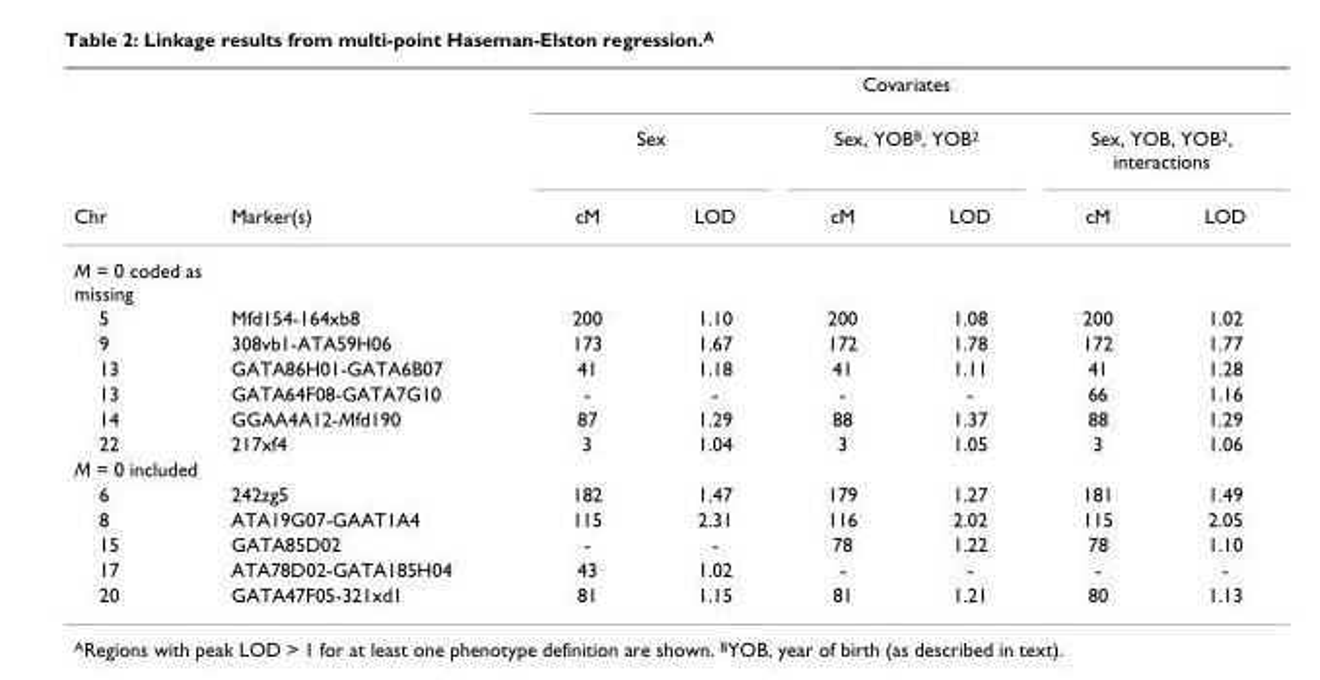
<table><thead><tr><td rowspan="3">Chr</td><td rowspan="3">Marker(s)</td><td colspan="6">Covariates</td></tr><tr><td colspan="2">Sex</td><td colspan="2">Sex, YOBB, YOB2</td><td colspan="2">Sex, YOB, YOB2, interactions</td></tr><tr><td>cM</td><td>LOD</td><td>cM</td><td>LOD</td><td>cM</td><td>LOD</td></tr></thead><tbody><tr><td colspan="8">M = 0 coded as missing</td></tr><tr><td>5</td><td>Mfd154-164xb8</td><td>200</td><td>1.10</td><td>200</td><td>1.08</td><td>200</td><td>1.02</td></tr><tr><td>9</td><td>308vb1-ATA59H06</td><td>173</td><td>1.67</td><td>172</td><td>1.78</td><td>172</td><td>1.77</td></tr><tr><td>13</td><td>GATA86H01-GATA6B07</td><td>41</td><td>1.18</td><td>41</td><td>1.11</td><td>41</td><td>1.28</td></tr><tr><td>13</td><td>GATA64F08-GATA7G10</td><td>-</td><td>-</td><td>-</td><td>-</td><td>66</td><td>1.16</td></tr><tr><td>14</td><td>GGAA4A12-Mfd190</td><td>87</td><td>1.29</td><td>88</td><td>1.37</td><td>88</td><td>1.29</td></tr><tr><td>22</td><td>217xf4</td><td>3</td><td>1.04</td><td>3</td><td>1.05</td><td>3</td><td>1.06</td></tr><tr><td colspan="8">M = 0 included</td></tr><tr><td>6</td><td>242zg5</td><td>182</td><td>1.47</td><td>179</td><td>1.27</td><td>181</td><td>1.49</td></tr><tr><td>8</td><td>ATA19G07-GAAT1A4</td><td>115</td><td>2.31</td><td>116</td><td>2.02</td><td>115</td><td>2.05</td></tr><tr><td>15</td><td>GATA85D02</td><td>-</td><td>-</td><td>78</td><td>1.22</td><td>78</td><td>1.10</td></tr><tr><td>17</td><td>ATA78D02-GATA185H04</td><td>43</td><td>1.02</td><td>-</td><td>-</td><td>-</td><td>-</td></tr><tr><td>20</td><td>GATA47F05-321xd1</td><td>81</td><td>1.15</td><td>81</td><td>1.21</td><td>80</td><td>1.13</td></tr></tbody></table>